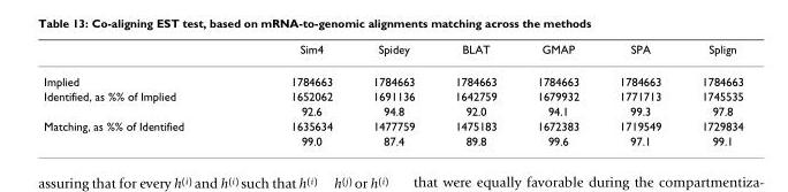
<table><thead><tr><td></td><td>Sim4</td><td>Spidey</td><td>BLAT</td><td>GMAP</td><td>SPA</td><td>Splign</td></tr></thead><tbody><tr><td>Implied</td><td>1784663</td><td>1784663</td><td>1784663</td><td>1784663</td><td>1784663</td><td>1784663</td></tr><tr><td rowspan="2">Identified, as %% of Implied</td><td>1652062</td><td>1691136</td><td>1642759</td><td>1679932</td><td>1771713</td><td>1745535</td></tr><tr><td>92.6</td><td>94.8</td><td>92.0</td><td>94.1</td><td>99.3</td><td>97.8</td></tr><tr><td rowspan="2">Matching, as %% of Identified</td><td>1635634</td><td>1477759</td><td>1475183</td><td>1672383</td><td>1719549</td><td>1729834</td></tr><tr><td>99.0</td><td>87.4</td><td>89.8</td><td>99.6</td><td>97.1</td><td>99.1</td></tr></tbody></table>